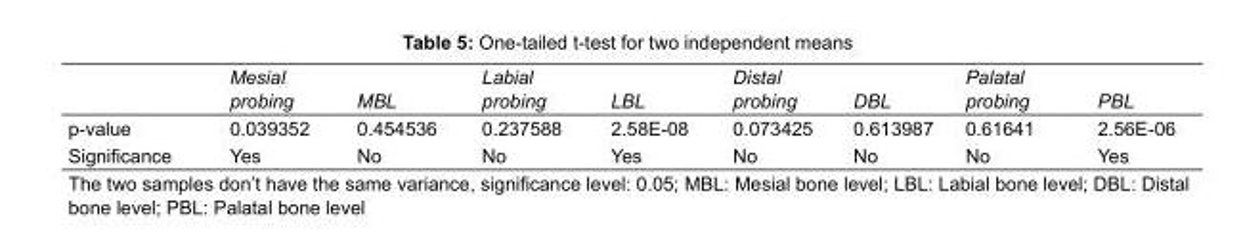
<table><thead><tr><td></td><td>Mesial probing</td><td>MBL</td><td>Labial probing</td><td>LBL</td><td>Distal probing</td><td>DBL</td><td>Palatal probing</td><td>PBL</td></tr></thead><tbody><tr><td>p-value</td><td>0.039352</td><td>0.454536</td><td>0.237588</td><td>2.58E-08</td><td>0.073425</td><td>0.613987</td><td>0.61641</td><td>2.56E-06</td></tr><tr><td>Significance</td><td>Yes</td><td>No</td><td>No</td><td>Yes</td><td>No</td><td>No</td><td>No</td><td>Yes</td></tr></tbody></table>